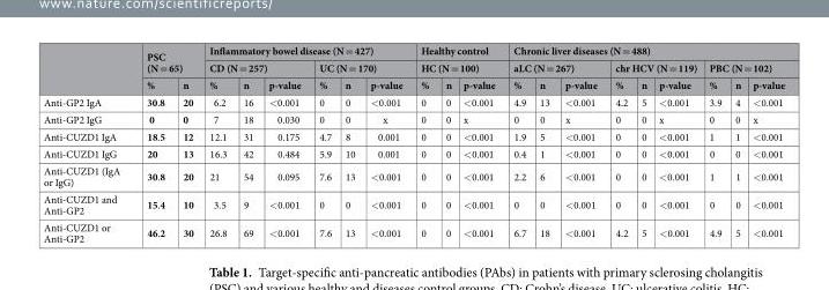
<table><thead><tr><td rowspan="3"></td><td rowspan="2" colspan="2">PSC (N = 65)</td><td colspan="6">Inflammatory bowel disease (N = 427)</td><td rowspan="2" colspan="3">Healthy control HC (N = 100)</td><td colspan="9">Chronic liver diseases (N = 488)</td></tr><tr><td colspan="3">CD (N = 257)</td><td colspan="3">UC (N = 170)</td><td colspan="3">aLC (N = 267)</td><td colspan="3">chr HCV (N = 119)</td><td colspan="3">PBC (N = 102)</td></tr><tr><td>%</td><td>n</td><td>%</td><td>n</td><td>p-value</td><td>%</td><td>n</td><td>p-value</td><td>%</td><td>n</td><td>p-value</td><td>%</td><td>n</td><td>p-value</td><td>%</td><td>n</td><td>p-value</td><td>%</td><td>n</td><td>p-value</td></tr></thead><tbody><tr><td>Anti-GP2 IgA</td><td>30.8</td><td>20</td><td>6.2</td><td>16</td><td>&lt;0.001</td><td>0</td><td>0</td><td>&lt;0.001</td><td>0</td><td>0</td><td>&lt;0.001</td><td>4.9</td><td>13</td><td>&lt;0.001</td><td>4.2</td><td>5</td><td>&lt;0.001</td><td>3.9</td><td>4</td><td>&lt;0.001</td></tr><tr><td>Anti-GP2 IgG</td><td>0</td><td>0</td><td>7</td><td>18</td><td>0.030</td><td>0</td><td>0</td><td>x</td><td>0</td><td>0</td><td>x</td><td>0</td><td>0</td><td>x</td><td>0</td><td>0</td><td>x</td><td>0</td><td>0</td><td>x</td></tr><tr><td>Anti-CUZD1 IgA</td><td>18.5</td><td>12</td><td>12.1</td><td>31</td><td>0.175</td><td>4.7</td><td>8</td><td>0.001</td><td>0</td><td>0</td><td>&lt;0.001</td><td>1.9</td><td>5</td><td>&lt;0.001</td><td>0</td><td>0</td><td>&lt;0.001</td><td>1</td><td>1</td><td>&lt;0.001</td></tr><tr><td>Anti-CUZD1 IgG</td><td>20</td><td>13</td><td>16.3</td><td>42</td><td>0.484</td><td>5.9</td><td>10</td><td>0.001</td><td>0</td><td>0</td><td>&lt;0.001</td><td>0.4</td><td>1</td><td>&lt;0.001</td><td>0</td><td>0</td><td>&lt;0.001</td><td>0</td><td>0</td><td>&lt;0.001</td></tr><tr><td>Anti-CUZD1 (IgA or IgG)</td><td>30.8</td><td>20</td><td>21</td><td>54</td><td>0.095</td><td>7.6</td><td>13</td><td>&lt;0.001</td><td>0</td><td>0</td><td>&lt;0.001</td><td>2.2</td><td>6</td><td>&lt;0.001</td><td>0</td><td>0</td><td>&lt;0.001</td><td>1</td><td>1</td><td>&lt;0.001</td></tr><tr><td>Anti-CUZD1 and Anti-GP2</td><td>15.4</td><td>10</td><td>3.5</td><td>9</td><td>&lt;0.001</td><td>0</td><td>0</td><td>&lt;0.001</td><td>0</td><td>0</td><td>&lt;0.001</td><td>0</td><td>0</td><td>&lt;0.001</td><td>0</td><td>0</td><td>&lt;0.001</td><td>0</td><td>0</td><td>&lt;0.001</td></tr><tr><td>Anti-CUZD1 or Anti-GP2</td><td>46.2</td><td>30</td><td>26.8</td><td>69</td><td>&lt;0.001</td><td>7.6</td><td>13</td><td>&lt;0.001</td><td>0</td><td>0</td><td>&lt;0.001</td><td>6.7</td><td>18</td><td>&lt;0.001</td><td>4.2</td><td>5</td><td>&lt;0.001</td><td>4.9</td><td>5</td><td>&lt;0.001</td></tr></tbody></table>